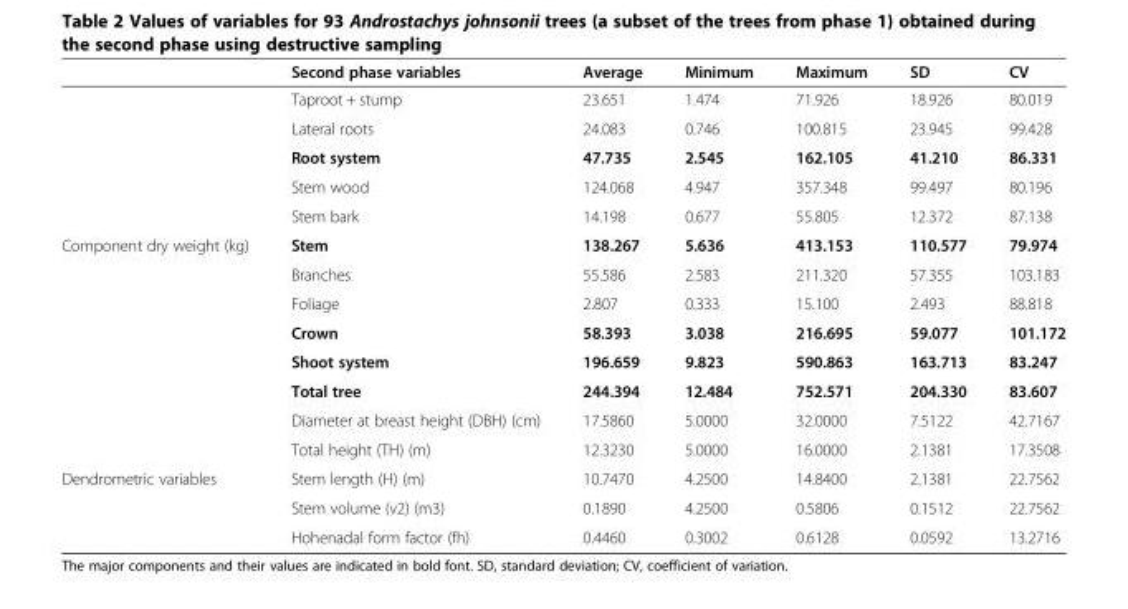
<table><thead><tr><td></td><td>Second phase variables</td><td>Average</td><td>Minimum</td><td>Maximum</td><td>SD</td><td>CV</td></tr></thead><tbody><tr><td rowspan="13">Component dry weight (kg)</td><td>Taproot + stump</td><td>23.651</td><td>1.474</td><td>71.926</td><td>18.926</td><td>80.019</td></tr><tr><td>Lateral roots</td><td>24.083</td><td>0.746</td><td>100.815</td><td>23.945</td><td>99.428</td></tr><tr><td>Root system</td><td>47.735</td><td>2.545</td><td>162.105</td><td>41.210</td><td>86.331</td></tr><tr><td>Stem wood</td><td>124.068</td><td>4.947</td><td>357.348</td><td>99.497</td><td>80.196</td></tr><tr><td>Stem bark</td><td>14.198</td><td>0.677</td><td>55.805</td><td>12.372</td><td>87.138</td></tr><tr><td>Stem</td><td>138.267</td><td>5.636</td><td>413.153</td><td>110.577</td><td>79.974</td></tr><tr><td>Branches</td><td>55.586</td><td>2.583</td><td>211.320</td><td>57.355</td><td>103.183</td></tr><tr><td>Foliage</td><td>2.807</td><td>0.333</td><td>15.100</td><td>2.493</td><td>88.818</td></tr><tr><td>Crown</td><td>58.393</td><td>3.038</td><td>216.695</td><td>59.077</td><td>101.172</td></tr><tr><td>Shoot system</td><td>196.659</td><td>9.823</td><td>590.863</td><td>163.713</td><td>83.247</td></tr><tr><td>Total tree</td><td>244.394</td><td>12.484</td><td>752.571</td><td>204.330</td><td>83.607</td></tr><tr><td>Diameter at breast height (DBH) (cm)</td><td>17.5860</td><td>5.0000</td><td>32.0000</td><td>7.5122</td><td>42.7167</td></tr><tr><td>Total height (TH) (m)</td><td>12.3230</td><td>5.0000</td><td>16.0000</td><td>2.1381</td><td>17.3508</td></tr><tr><td rowspan="3">Dendrometric variables</td><td>Stem length (H) (m)</td><td>10.7470</td><td>4.2500</td><td>14.8400</td><td>2.1381</td><td>22.7562</td></tr><tr><td>Stem volume (v2) (m3)</td><td>0.1890</td><td>4.2500</td><td>0.5806</td><td>0.1512</td><td>22.7562</td></tr><tr><td>Hohenadal form factor (fh)</td><td>0.4460</td><td>0.3002</td><td>0.6128</td><td>0.0592</td><td>13.2716</td></tr></tbody></table>